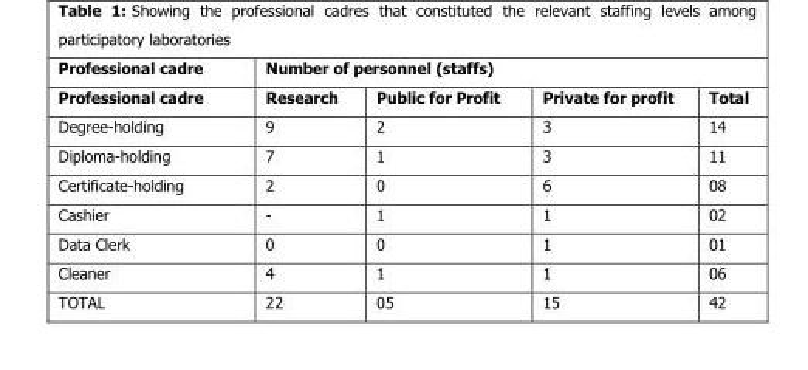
<table><thead><tr><td rowspan="2">Professional cadre Professional cadre</td><td colspan="4">Number of personnel (staffs)</td></tr><tr><td>Research</td><td>Public for Profit</td><td>Private for profit</td><td>Total</td></tr></thead><tbody><tr><td>Degree-holding</td><td>9</td><td>2</td><td>3</td><td>14</td></tr><tr><td>Diploma-holding</td><td>7</td><td>1</td><td>3</td><td>11</td></tr><tr><td>Certificate-holding</td><td>2</td><td>0</td><td>6</td><td>08</td></tr><tr><td>Cashier</td><td>-</td><td>1</td><td>1</td><td>02</td></tr><tr><td>Data Clerk</td><td>0</td><td>0</td><td>1</td><td>01</td></tr><tr><td>Cleaner</td><td>4</td><td>1</td><td>1</td><td>06</td></tr><tr><td>TOTAL</td><td>22</td><td>05</td><td>15</td><td>42</td></tr></tbody></table>